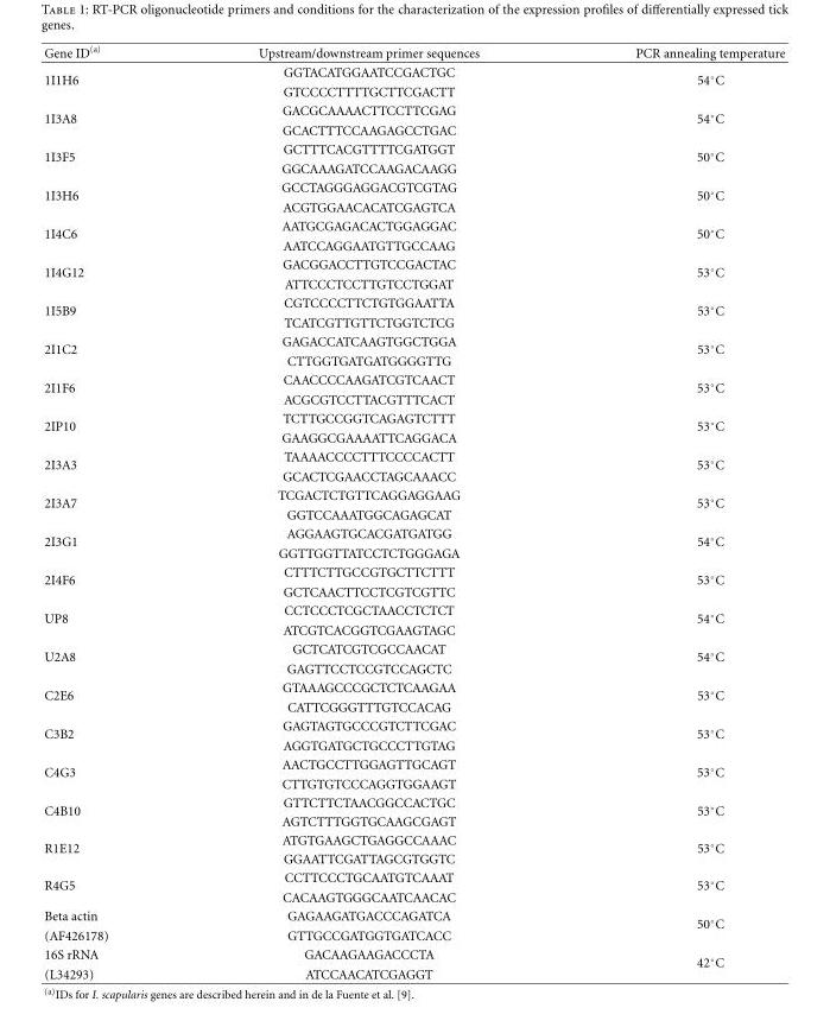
<table><thead><tr><td>Gene ID<sup>(a)</sup></td><td>Upstream/downstream primer sequences</td><td>PCR annealing temperature</td></tr></thead><tbody><tr><td rowspan="2">1I1H6</td><td>GGTACATGGAATCCGACTGC</td><td rowspan="2">54◦C</td></tr><tr><td>GTCCCCTTTTGCTTCGACTT</td></tr><tr><td rowspan="2">1I3A8</td><td>GACGCAAAACTTCCTTCGAG</td><td rowspan="2">54◦C</td></tr><tr><td>GCACTTTCCAAGAGCCTGAC</td></tr><tr><td rowspan="2">1I3F5</td><td>GCTTTCACGTTTTCGATGGT</td><td rowspan="2">50◦C</td></tr><tr><td>GGCAAAGATCCAAGACAAGG</td></tr><tr><td rowspan="2">1I3H6</td><td>GCCTAGGGAGGACGTCGTAG</td><td rowspan="2">50◦C</td></tr><tr><td>ACGTGGAACACATCGAGTCA</td></tr><tr><td rowspan="2">1I4C6</td><td>AATGCGAGACACTGGAGGAC</td><td rowspan="2">50◦C</td></tr><tr><td>AATCCAGGAATGTTGCCAAG</td></tr><tr><td rowspan="2">1I4G12</td><td>GACGGACCTTGTCCGACTAC</td><td rowspan="2">53◦C</td></tr><tr><td>ATTCCCTCCTTGTCCTGGAT</td></tr><tr><td rowspan="2">1I5B9</td><td>CGTCCCCTTCTGTGGAATTA</td><td rowspan="2">53◦C</td></tr><tr><td>TCATCGTTGTTCTGGTCTCG</td></tr><tr><td rowspan="2">2I1C2</td><td>GAGACCATCAAGTGGCTGGA</td><td rowspan="2">53◦C</td></tr><tr><td>CTTGGTGATGATGGGGTTG</td></tr><tr><td rowspan="2">2I1F6</td><td>CAACCCCAAGATCGTCAACT</td><td rowspan="2">53◦C</td></tr><tr><td>ACGCGTCCTTACGTTTCACT</td></tr><tr><td rowspan="2">2IP10</td><td>TCTTGCCGGTCAGAGTCTTT</td><td rowspan="2">53◦C</td></tr><tr><td>GAAGGCGAAAATTCAGGACA</td></tr><tr><td rowspan="2">2I3A3</td><td>TAAAACCCCTTTCCCCACTT</td><td rowspan="2">53◦C</td></tr><tr><td>GCACTCGAACCTAGCAAACC</td></tr><tr><td rowspan="2">2I3A7</td><td>TCGACTCTGTTCAGGAGGAAG</td><td rowspan="2">53◦C</td></tr><tr><td>GGTCCAAATGGCAGAGCAT</td></tr><tr><td rowspan="2">2I3G1</td><td>AGGAAGTGCACGATGATGG</td><td rowspan="2">54◦C</td></tr><tr><td>GGTTGGTTATCCTCTGGGAGA</td></tr><tr><td rowspan="2">2I4F6</td><td>CTTTCTTGCCGTGCTTCTTT</td><td rowspan="2">53◦C</td></tr><tr><td>GCTCAACTTCCTCGTCGTTC</td></tr><tr><td rowspan="2">UP8</td><td>CCTCCCTCGCTAACCTCTCT</td><td rowspan="2">54◦C</td></tr><tr><td>ATCGTCACGGTCGAAGTAGC</td></tr><tr><td rowspan="2">U2A8</td><td>GCTCATCGTCGCCAACAT</td><td rowspan="2">54◦C</td></tr><tr><td>GAGTTCCTCCGTCCAGCTC</td></tr><tr><td rowspan="2">C2E6</td><td>GTAAAGCCCGCTCTCAAGAA</td><td rowspan="2">53◦C</td></tr><tr><td>CATTCGGGTTTGTCCACAG</td></tr><tr><td rowspan="2">C3B2</td><td>GAGTAGTGCCCGTCTTCGAC</td><td rowspan="2">53◦C</td></tr><tr><td>AGGTGATGCTGCCCTTGTAG</td></tr><tr><td rowspan="2">C4G3</td><td>AACTGCCTTGGAGTTGCAGT</td><td rowspan="2">53◦C</td></tr><tr><td>CTTGTGTCCCAGGTGGAAGT</td></tr><tr><td rowspan="2">C4B10</td><td>GTTCTTCTAACGGCCACTGC</td><td rowspan="2">53◦C</td></tr><tr><td>AGTCTTTGGTGCAAGCGAGT</td></tr><tr><td rowspan="2">R1E12</td><td>ATGTGAAGCTGAGGCCAAAC</td><td rowspan="2">53◦C</td></tr><tr><td>GGAATTCGATTAGCGTGGTC</td></tr><tr><td rowspan="2">R4G5</td><td>CCTTCCCTGCAATGTCAAAT</td><td rowspan="2">53◦C</td></tr><tr><td>CACAAGTGGGCAATCAACAC</td></tr><tr><td>Beta actin</td><td>GAGAAGATGACCCAGATCA</td><td rowspan="2">50◦C</td></tr><tr><td>(AF426178)</td><td>GTTGCCGATGGTGATCACC</td></tr><tr><td>16S rRNA</td><td>GACAAGAAGACCCTA</td><td rowspan="2">42◦C</td></tr><tr><td>(L34293)</td><td>ATCCAACATCGAGGT</td></tr></tbody></table>